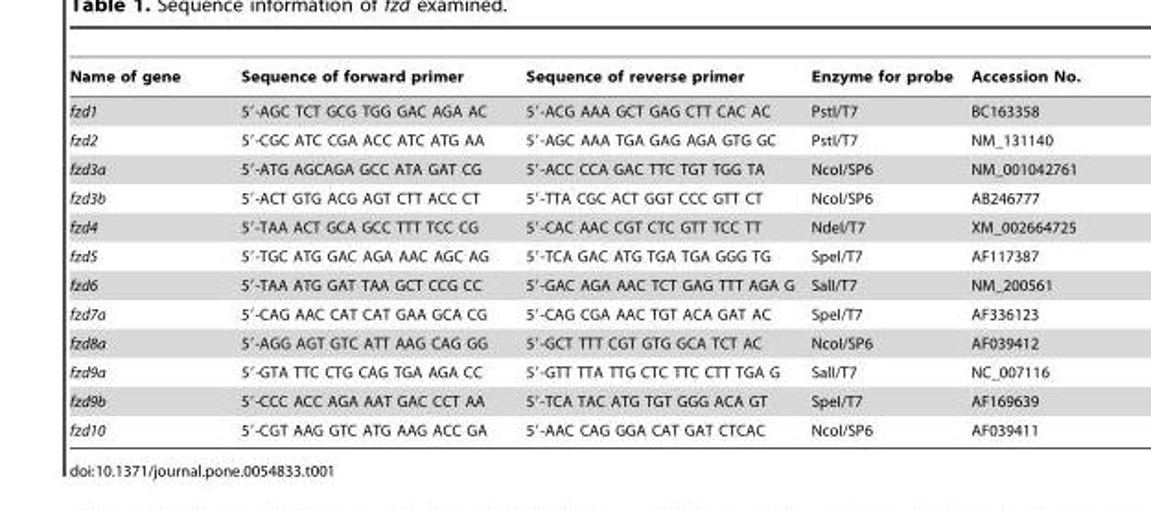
<table><thead><tr><td>Name of gene</td><td>Sequence of forward primer</td><td>Sequence of reverse primer</td><td>Enzyme for probe</td><td>Accession No.</td></tr></thead><tbody><tr><td>fzd1</td><td>5′-AGC TCT GCG TGG GAC AGA AC</td><td>5′-ACG AAA GCT GAG CTT CAC AC</td><td>PstI/T7</td><td>BC163358</td></tr><tr><td>fzd2</td><td>5′-CGC ATC CGA ACC ATC ATG AA</td><td>5′-AGC AAA TGA GAG AGA GTG GC</td><td>PstI/T7</td><td>NM_131140</td></tr><tr><td>fzd3a</td><td>5′-ATG AGCAGA GCC ATA GAT CG</td><td>5′-ACC CCA GAC TTC TGT TGG TA</td><td>NcoI/SP6</td><td>NM_001042761</td></tr><tr><td>fzd3b</td><td>5′-ACT GTG ACG AGT CTT ACC CT</td><td>5′-TTA CGC ACT GGT CCC GTT CT</td><td>NcoI/SP6</td><td>AB246777</td></tr><tr><td>fzd4</td><td>5′-TAA ACT GCA GCC TTT TCC CG</td><td>5′-CAC AAC CGT CTC GTT TCC TT</td><td>NdeI/T7</td><td>XM_002664725</td></tr><tr><td>fzd5</td><td>5′-TGC ATG GAC AGA AAC AGC AG</td><td>5′-TCA GAC ATG TGA TGA GGG TG</td><td>SpeI/T7</td><td>AF117387</td></tr><tr><td>fzd6</td><td>5′-TAA ATG GAT TAA GCT CCG CC</td><td>5′-GAC AGA AAC TCT GAG TTT AGA G</td><td>SalI/T7</td><td>NM_200561</td></tr><tr><td>fzd7a</td><td>5′-CAG AAC CAT CAT GAA GCA CG</td><td>5′-CAG CGA AAC TGT ACA GAT AC</td><td>SpeI/T7</td><td>AF336123</td></tr><tr><td>fzd8a</td><td>5′-AGG AGT GTC ATT AAG CAG GG</td><td>5′-GCT TTT CGT GTG GCA TCT AC</td><td>NcoI/SP6</td><td>AF039412</td></tr><tr><td>fzd9a</td><td>5′-GTA TTC CTG CAG TGA AGA CC</td><td>5′-GTT TTA TTG CTC TTC CTT TGA G</td><td>SalI/T7</td><td>NC_007116</td></tr><tr><td>fzd9b</td><td>5′-CCC ACC AGA AAT GAC CCT AA</td><td>5′-TCA TAC ATG TGT GGG ACA GT</td><td>SpeI/T7</td><td>AF169639</td></tr><tr><td>fzd10</td><td>5′-CGT AAG GTC ATG AAG ACC GA</td><td>5′-AAC CAG GGA CAT GAT CTCAC</td><td>NcoI/SP6</td><td>AF039411</td></tr></tbody></table>